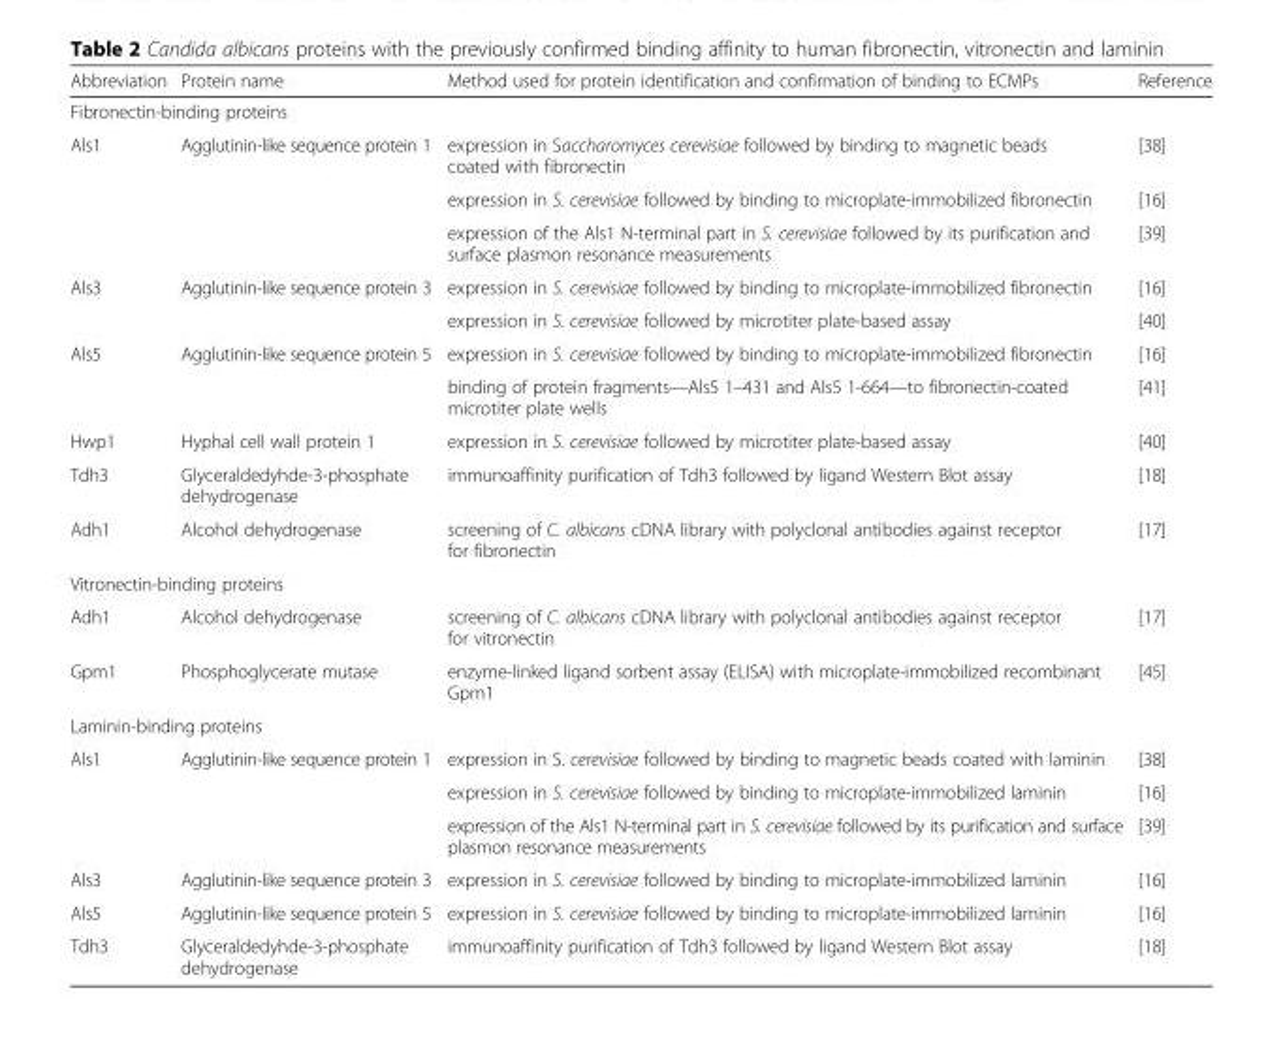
<table><thead><tr><td>Abbreviation</td><td>Protein name</td><td>Method used for protein identification and confirmation of binding to ECMPs</td><td>Reference</td></tr></thead><tbody><tr><td colspan="4">Fibronectin-binding proteins</td></tr><tr><td rowspan="3">Als1</td><td rowspan="3">Agglutinin-like sequence protein 1</td><td>expression in Saccharomyces cerevisiae followed by binding to magnetic beads coated with fibronectin</td><td>[38]</td></tr><tr><td>expression in S. cerevisiae followed by binding to microplate-immobilized fibronectin</td><td>[16]</td></tr><tr><td>expression of the Als1 N-terminal part in S. cerevisiae followed by its purification and surface plasmon resonance measurements</td><td>[39]</td></tr><tr><td rowspan="2">Als3</td><td rowspan="2">Agglutinin-like sequence protein 3</td><td>expression in S. cerevisiae followed by binding to microplate-immobilized fibronectin</td><td>[16]</td></tr><tr><td>expression in S. cerevisiae followed by microtiter plate-based assay</td><td>[40]</td></tr><tr><td rowspan="2">Als5</td><td rowspan="2">Agglutinin-like sequence protein 5</td><td>expression in S. cerevisiae followed by binding to microplate-immobilized fibronectin</td><td>[16]</td></tr><tr><td>binding of protein fragments—Als5 1–431 and Als5 1-664—to fibronectin-coated microtiter plate wells</td><td>[41]</td></tr><tr><td>Hwp1</td><td>Hyphal cell wall protein 1</td><td>expression in S. cerevisiae followed by microtiter plate-based assay</td><td>[40]</td></tr><tr><td>Tdh3</td><td>Glyceraldedyhde-3-phosphate dehydrogenase</td><td>immunoaffinity purification of Tdh3 followed by ligand Western Blot assay</td><td>[18]</td></tr><tr><td>Adh1</td><td>Alcohol dehydrogenase</td><td>screening of C. albicans cDNA library with polyclonal antibodies against receptor for fibronectin</td><td>[17]</td></tr><tr><td colspan="4">Vitronectin-binding proteins</td></tr><tr><td>Adh1</td><td>Alcohol dehydrogenase</td><td>screening of C. albicans cDNA library with polyclonal antibodies against receptor for vitronectin</td><td>[17]</td></tr><tr><td>Gpm1</td><td>Phosphoglycerate mutase</td><td>enzyme-linked ligand sorbent assay (ELISA) with microplate-immobilized recombinant Gpm1</td><td>[45]</td></tr><tr><td colspan="4">Laminin-binding proteins</td></tr><tr><td rowspan="3">Als1</td><td rowspan="3">Agglutinin-like sequence protein 1</td><td>expression in S. cerevisiae followed by binding to magnetic beads coated with laminin</td><td>[38]</td></tr><tr><td>expression in S. cerevisiae followed by binding to microplate-immobilized laminin</td><td>[16]</td></tr><tr><td>expression of the Als1 N-terminal part in S. cerevisiae followed by its purification and surface plasmon resonance measurements</td><td>[39]</td></tr><tr><td>Als3</td><td>Agglutinin-like sequence protein 3</td><td>expression in S. cerevisiae followed by binding to microplate-immobilized laminin</td><td>[16]</td></tr><tr><td>Als5</td><td>Agglutinin-like sequence protein 5</td><td>expression in S. cerevisiae followed by binding to microplate-immobilized laminin</td><td>[16]</td></tr><tr><td>Tdh3</td><td>Glyceraldedyhde-3-phosphate dehydrogenase</td><td>immunoaffinity purification of Tdh3 followed by ligand Western Blot assay</td><td>[18]</td></tr></tbody></table>